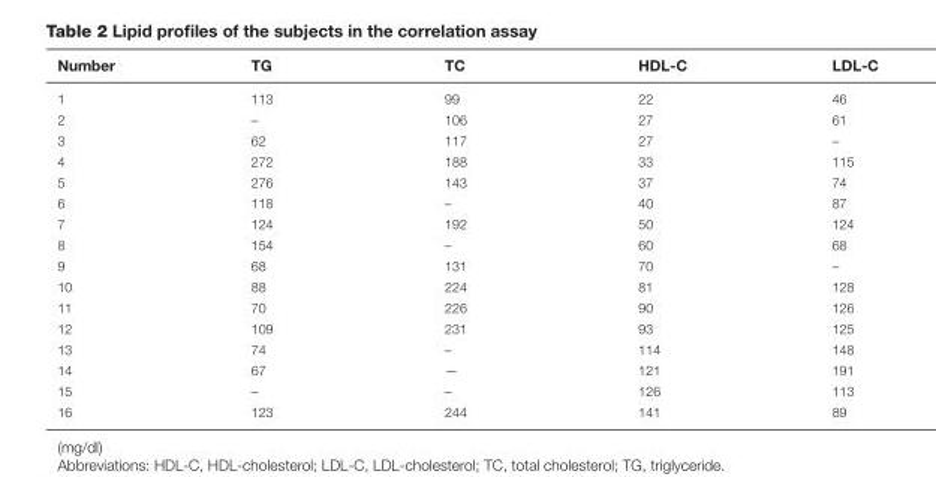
<table><thead><tr><td>Number</td><td>TG</td><td>TC</td><td>HDL-C</td><td>LDL-C</td></tr></thead><tbody><tr><td>1</td><td>113</td><td>99</td><td>22</td><td>46</td></tr><tr><td>2</td><td>–</td><td>106</td><td>27</td><td>61</td></tr><tr><td>3</td><td>62</td><td>117</td><td>27</td><td>–</td></tr><tr><td>4</td><td>272</td><td>188</td><td>33</td><td>115</td></tr><tr><td>5</td><td>276</td><td>143</td><td>37</td><td>74</td></tr><tr><td>6</td><td>118</td><td>–</td><td>40</td><td>87</td></tr><tr><td>7</td><td>124</td><td>192</td><td>50</td><td>124</td></tr><tr><td>8</td><td>154</td><td>–</td><td>60</td><td>68</td></tr><tr><td>9</td><td>68</td><td>131</td><td>70</td><td>–</td></tr><tr><td>10</td><td>88</td><td>224</td><td>81</td><td>128</td></tr><tr><td>11</td><td>70</td><td>226</td><td>90</td><td>126</td></tr><tr><td>12</td><td>109</td><td>231</td><td>93</td><td>125</td></tr><tr><td>13</td><td>74</td><td>–</td><td>114</td><td>148</td></tr><tr><td>14</td><td>67</td><td>—</td><td>121</td><td>191</td></tr><tr><td>15</td><td>–</td><td>–</td><td>126</td><td>113</td></tr><tr><td>16</td><td>123</td><td>244</td><td>141</td><td>89</td></tr></tbody></table>